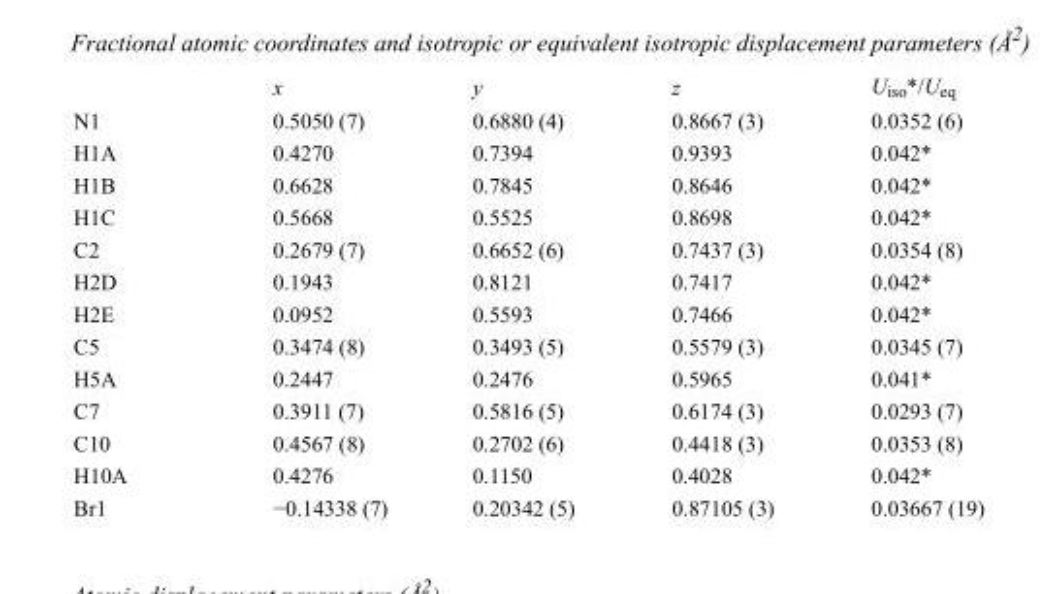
<table><thead><tr><td></td><td>x</td><td>y</td><td>z</td><td>U<sub>iso</sub>*/U<sub>eq</sub></td></tr></thead><tbody><tr><td>N1</td><td>0.5050 (7)</td><td>0.6880 (4)</td><td>0.8667 (3)</td><td>0.0352 (6)</td></tr><tr><td>H1A</td><td>0.4270</td><td>0.7394</td><td>0.9393</td><td>0.042*</td></tr><tr><td>H1B</td><td>0.6628</td><td>0.7845</td><td>0.8646</td><td>0.042*</td></tr><tr><td>H1C</td><td>0.5668</td><td>0.5525</td><td>0.8698</td><td>0.042*</td></tr><tr><td>C2</td><td>0.2679 (7)</td><td>0.6652 (6)</td><td>0.7437 (3)</td><td>0.0354 (8)</td></tr><tr><td>H2D</td><td>0.1943</td><td>0.8121</td><td>0.7417</td><td>0.042*</td></tr><tr><td>H2E</td><td>0.0952</td><td>0.5593</td><td>0.7466</td><td>0.042*</td></tr><tr><td>C5</td><td>0.3474 (8)</td><td>0.3493 (5)</td><td>0.5579 (3)</td><td>0.0345 (7)</td></tr><tr><td>H5A</td><td>0.2447</td><td>0.2476</td><td>0.5965</td><td>0.041*</td></tr><tr><td>C7</td><td>0.3911 (7)</td><td>0.5816 (5)</td><td>0.6174 (3)</td><td>0.0293 (7)</td></tr><tr><td>C10</td><td>0.4567 (8)</td><td>0.2702 (6)</td><td>0.4418 (3)</td><td>0.0353 (8)</td></tr><tr><td>H10A</td><td>0.4276</td><td>0.1150</td><td>0.4028</td><td>0.042*</td></tr><tr><td>Br1</td><td>−0.14338 (7)</td><td>0.20342 (5)</td><td>0.87105 (3)</td><td>0.03667 (19)</td></tr></tbody></table>